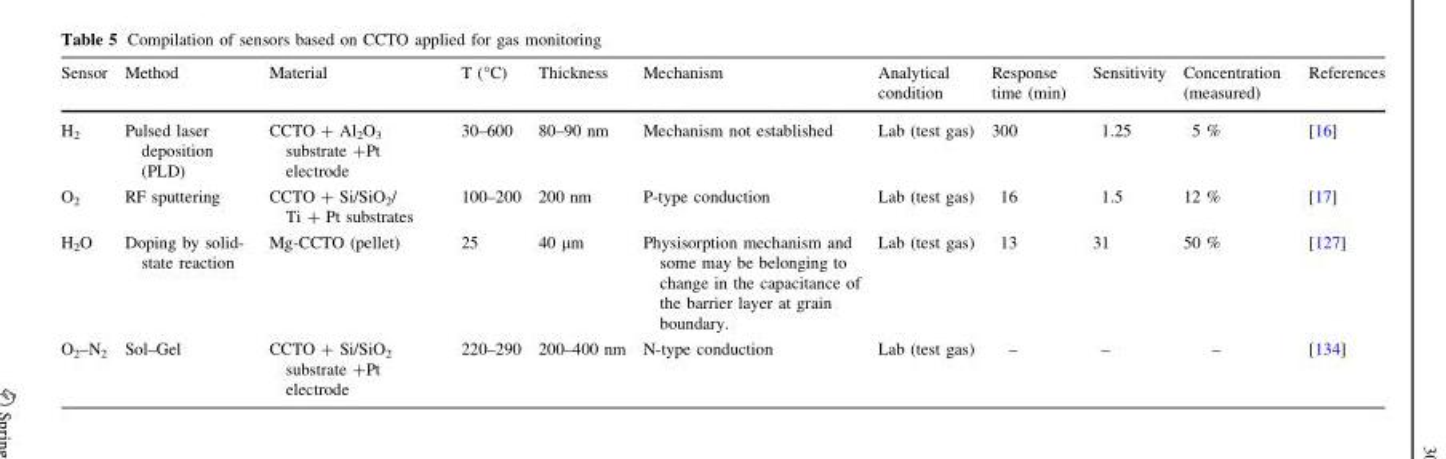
<table><thead><tr><td>Sensor</td><td>Method</td><td>Material</td><td>T (°C)</td><td>Thickness</td><td>Mechanism</td><td>Analytical condition</td><td>Response time (min)</td><td>Sensitivity</td><td>Concentration (measured)</td><td>References</td></tr></thead><tbody><tr><td>H<sub>2</sub></td><td>Pulsed laser deposition (PLD)</td><td>CCTO + Al<sub>2</sub>O<sub>3</sub> substrate +Pt electrode</td><td>30–600</td><td>80–90 nm</td><td>Mechanism not established</td><td>Lab (test gas)</td><td>300</td><td>1.25</td><td>5 %</td><td>[16]</td></tr><tr><td>O<sub>2</sub></td><td>RF sputtering</td><td>CCTO + Si/SiO<sub>2</sub>/ Ti + Pt substrates</td><td>100–200</td><td>200 nm</td><td>P-type conduction</td><td>Lab (test gas)</td><td>16</td><td>1.5</td><td>12 %</td><td>[17]</td></tr><tr><td>H<sub>2</sub>O</td><td>Doping by solid- state reaction</td><td>Mg-CCTO (pellet)</td><td>25</td><td>40 µm</td><td>Physisorption mechanism and some may be belonging to change in the capacitance of the barrier layer at grain boundary.</td><td>Lab (test gas)</td><td>13</td><td>31</td><td>50 %</td><td>[127]</td></tr><tr><td>O<sub>2</sub>–N<sub>2</sub></td><td>Sol–Gel</td><td>CCTO + Si/SiO<sub>2</sub> substrate +Pt electrode</td><td>220–290</td><td>200–400 nm</td><td>N-type conduction</td><td>Lab (test gas)</td><td>–</td><td>–</td><td>–</td><td>[134]</td></tr></tbody></table>